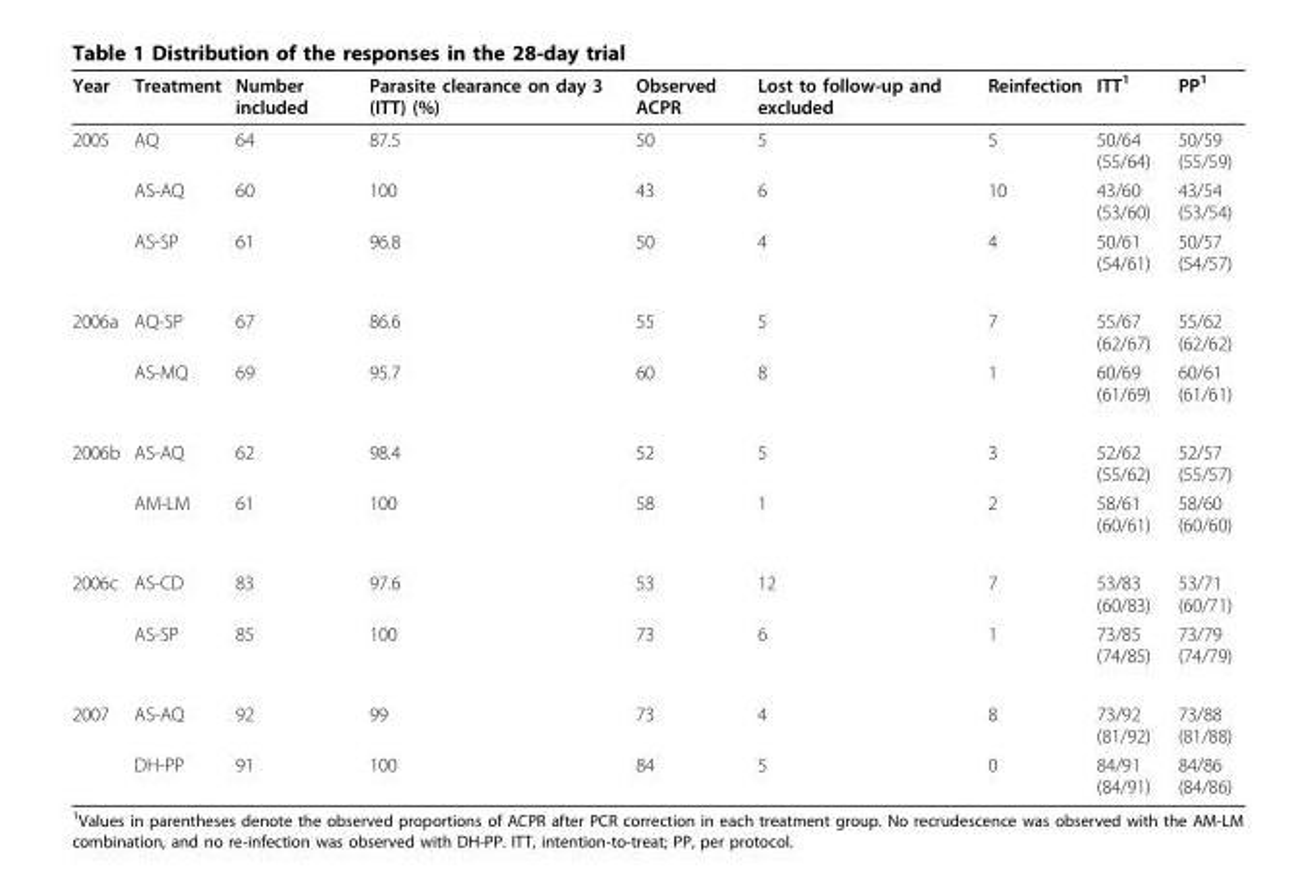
<table><thead><tr><td>Year</td><td>Treatment</td><td>Number included</td><td>Parasite clearance on day 3 (ITT) (%)</td><td>Observed ACPR</td><td>Lost to follow-up and excluded</td><td>Reinfection</td><td>ITT<sup>1</sup></td><td>PP<sup>1</sup></td></tr></thead><tbody><tr><td rowspan="3">2005</td><td>AQ</td><td>64</td><td>87.5</td><td>50</td><td>5</td><td>5</td><td>50/64 (55/64)</td><td>50/59 (55/59)</td></tr><tr><td>AS-AQ</td><td>60</td><td>100</td><td>43</td><td>6</td><td>10</td><td>43/60 (53/60)</td><td>43/54 (53/54)</td></tr><tr><td>AS-SP</td><td>61</td><td>96.8</td><td>50</td><td>4</td><td>4</td><td>50/61 (54/61)</td><td>50/57 (54/57)</td></tr><tr><td rowspan="2">2006a</td><td>AQ-SP</td><td>67</td><td>86.6</td><td>55</td><td>5</td><td>7</td><td>55/67 (62/67)</td><td>55/62 (62/62)</td></tr><tr><td>AS-MQ</td><td>69</td><td>95.7</td><td>60</td><td>8</td><td>1</td><td>60/69 (61/69)</td><td>60/61 (61/61)</td></tr><tr><td rowspan="2">2006b</td><td>AS-AQ</td><td>62</td><td>98.4</td><td>52</td><td>5</td><td>3</td><td>52/62 (55/62)</td><td>52/57 (55/57)</td></tr><tr><td>AM-LM</td><td>61</td><td>100</td><td>58</td><td>1</td><td>2</td><td>58/61 (60/61)</td><td>58/60 (60/60)</td></tr><tr><td rowspan="2">2006c</td><td>AS-CD</td><td>83</td><td>97.6</td><td>53</td><td>12</td><td>7</td><td>53/83 (60/83)</td><td>53/71 (60/71)</td></tr><tr><td>AS-SP</td><td>85</td><td>100</td><td>73</td><td>6</td><td>1</td><td>73/85 (74/85)</td><td>73/79 (74/79)</td></tr><tr><td rowspan="2">2007</td><td>AS-AQ</td><td>92</td><td>99</td><td>73</td><td>4</td><td>8</td><td>73/92 (81/92)</td><td>73/88 (81/88)</td></tr><tr><td>DH-PP</td><td>91</td><td>100</td><td>84</td><td>5</td><td>0</td><td>84/91 (84/91)</td><td>84/86 (84/86)</td></tr></tbody></table>